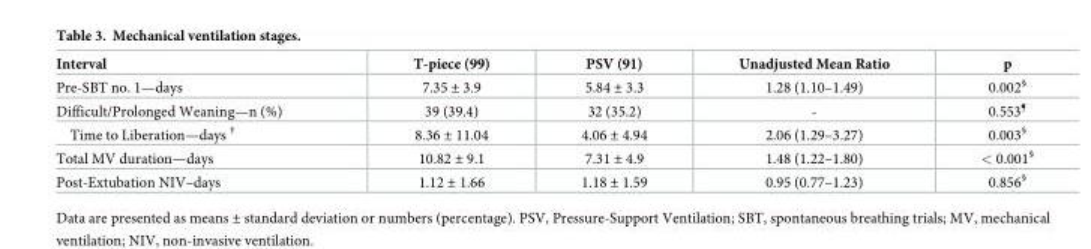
<table><thead><tr><td>Interval</td><td>T-piece (99)</td><td>PSV (91)</td><td>Unadjusted Mean Ratio</td><td>p</td></tr></thead><tbody><tr><td>Pre-SBT no. 1—days</td><td>7.35 ± 3.9</td><td>5.84 ± 3.3</td><td>1.28 (1.10–1.49)</td><td>0.002<sup>§</sup></td></tr><tr><td>Difficult/Prolonged Weaning—n (%)</td><td>39 (39.4)</td><td>32 (35.2)</td><td>-</td><td>0.553<sup>¶</sup></td></tr><tr><td>Time to Liberation—days <sup>†</sup></td><td>8.36 ± 11.04</td><td>4.06 ± 4.94</td><td>2.06 (1.29–3.27)</td><td>0.003<sup>§</sup></td></tr><tr><td>Total MV duration—days</td><td>10.82 ± 9.1</td><td>7.31 ± 4.9</td><td>1.48 (1.22–1.80)</td><td>&lt; 0.001<sup>§</sup></td></tr><tr><td>Post-Extubation NIV–days</td><td>1.12 ± 1.66</td><td>1.18 ± 1.59</td><td>0.95 (0.77–1.23)</td><td>0.856<sup>§</sup></td></tr></tbody></table>